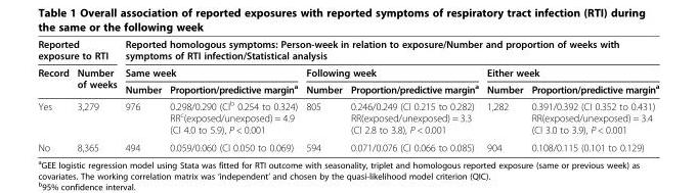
<table><thead><tr><td colspan="2">Reported exposure to RTI</td><td colspan="6">Reported homologous symptoms: Person-week in relation to exposure/Number and proportion of weeks with symptoms of RTI infection/Statistical analysis</td></tr><tr><td rowspan="2">Record</td><td rowspan="2">Number of weeks</td><td colspan="2">Same week</td><td colspan="2">Following week</td><td colspan="2">Either week</td></tr><tr><td>Number</td><td>Proportion/predictive margin<sup>a</sup></td><td>Number</td><td>Proportion/predictive margin<sup>a</sup></td><td>Number</td><td>Proportion/predictive margin<sup>a</sup></td></tr></thead><tbody><tr><td>Yes</td><td>3,279</td><td>976</td><td>0.298/0.290 (CI<sup>b</sup> 0.254 to 0.324) RR<sup>c</sup>(exposed/unexposed) = 4.9 (CI 4.0 to 5.9), P &lt; 0.001</td><td>805</td><td>0.246/0.249 (CI 0.215 to 0.282) RR(exposed/unexposed) = 3.3 (CI 2.8 to 3.8), P &lt; 0.001</td><td>1,282</td><td>0.391/0.392 (CI 0.352 to 0.431) RR(exposed/unexposed) = 3.4 (CI 3.0 to 3.9), P &lt; 0.001</td></tr><tr><td>No</td><td>8,365</td><td>494</td><td>0.059/0.060 (CI 0.050 to 0.069)</td><td>594</td><td>0.071/0.076 (CI 0.066 to 0.085)</td><td>904</td><td>0.108/0.115 (0.101 to 0.129)</td></tr></tbody></table>